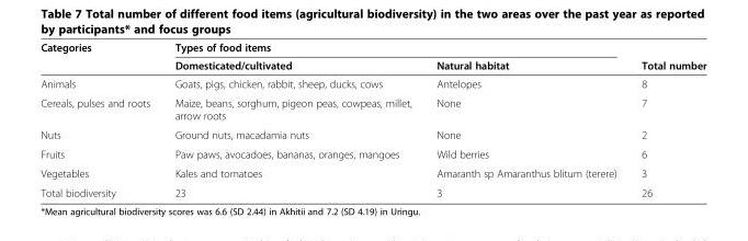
<table><thead><tr><td rowspan="2">Categories</td><td colspan="2">Types of food items</td><td rowspan="2">Total number</td></tr><tr><td>Domesticated/cultivated</td><td>Natural habitat</td></tr></thead><tbody><tr><td>Animals</td><td>Goats, pigs, chicken, rabbit, sheep, ducks, cows</td><td>Antelopes</td><td>8</td></tr><tr><td>Cereals, pulses and roots</td><td>Maize, beans, sorghum, pigeon peas, cowpeas, millet, arrow roots</td><td>None</td><td>7</td></tr><tr><td>Nuts</td><td>Ground nuts, macadamia nuts</td><td>None</td><td>2</td></tr><tr><td>Fruits</td><td>Paw paws, avocadoes, bananas, oranges, mangoes</td><td>Wild berries</td><td>6</td></tr><tr><td>Vegetables</td><td>Kales and tomatoes</td><td>Amaranth sp Amaranthus blitum (terere)</td><td>3</td></tr><tr><td>Total biodiversity</td><td>23</td><td>3</td><td>26</td></tr></tbody></table>